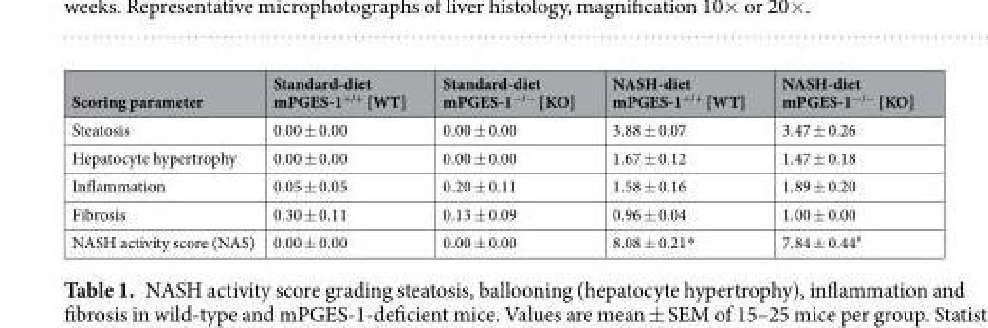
<table><thead><tr><td>Scoring parameter</td><td>Standard-diet mPGES-1<sup>+/+</sup> [WT]</td><td>Standard-diet mPGES-1<sup>−/−</sup> [KO]</td><td>NASH-diet mPGES-1<sup>+/+</sup> [WT]</td><td>NASH-diet mPGES-1<sup>−/−</sup> [KO]</td></tr></thead><tbody><tr><td>Steatosis</td><td>0.00 ± 0.00</td><td>0.00 ± 0.00</td><td>3.88 ± 0.07</td><td>3.47 ± 0.26</td></tr><tr><td>Hepatocyte hypertrophy</td><td>0.00 ± 0.00</td><td>0.00 ± 0.00</td><td>1.67 ± 0.12</td><td>1.47 ± 0.18</td></tr><tr><td>Inflammation</td><td>0.05 ± 0.05</td><td>0.20 ± 0.11</td><td>1.58 ± 0.16</td><td>1.89 ± 0.20</td></tr><tr><td>Fibrosis</td><td>0.30 ± 0.11</td><td>0.13 ± 0.09</td><td>0.96 ± 0.04</td><td>1.00 ± 0.00</td></tr><tr><td>NASH activity score (NAS)</td><td>0.00 ± 0.00</td><td>0.00 ± 0.00</td><td>8.08 ± 0.21*</td><td>7.84 ± 0.44<sup>#</sup></td></tr></tbody></table>